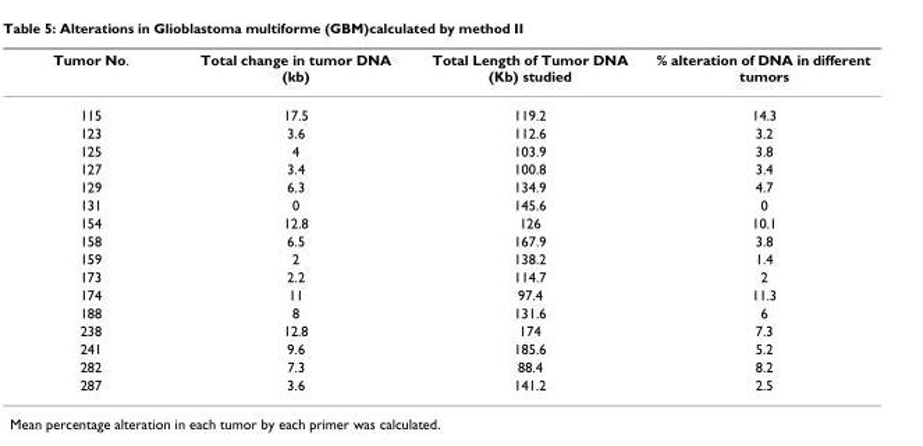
<table><thead><tr><td>Tumor No.</td><td>Total change in tumor DNA (kb)</td><td>Total Length of Tumor DNA (Kb) studied</td><td>% alteration of DNA in different tumors</td></tr></thead><tbody><tr><td>115</td><td>17.5</td><td>119.2</td><td>14.3</td></tr><tr><td>123</td><td>3.6</td><td>112.6</td><td>3.2</td></tr><tr><td>125</td><td>4</td><td>103.9</td><td>3.8</td></tr><tr><td>127</td><td>3.4</td><td>100.8</td><td>3.4</td></tr><tr><td>129</td><td>6.3</td><td>134.9</td><td>4.7</td></tr><tr><td>131</td><td>0</td><td>145.6</td><td>0</td></tr><tr><td>154</td><td>12.8</td><td>126</td><td>10.1</td></tr><tr><td>158</td><td>6.5</td><td>167.9</td><td>3.8</td></tr><tr><td>159</td><td>2</td><td>138.2</td><td>1.4</td></tr><tr><td>173</td><td>2.2</td><td>114.7</td><td>2</td></tr><tr><td>174</td><td>11</td><td>97.4</td><td>11.3</td></tr><tr><td>188</td><td>8</td><td>131.6</td><td>6</td></tr><tr><td>238</td><td>12.8</td><td>174</td><td>7.3</td></tr><tr><td>241</td><td>9.6</td><td>185.6</td><td>5.2</td></tr><tr><td>282</td><td>7.3</td><td>88.4</td><td>8.2</td></tr><tr><td>287</td><td>3.6</td><td>141.2</td><td>2.5</td></tr></tbody></table>